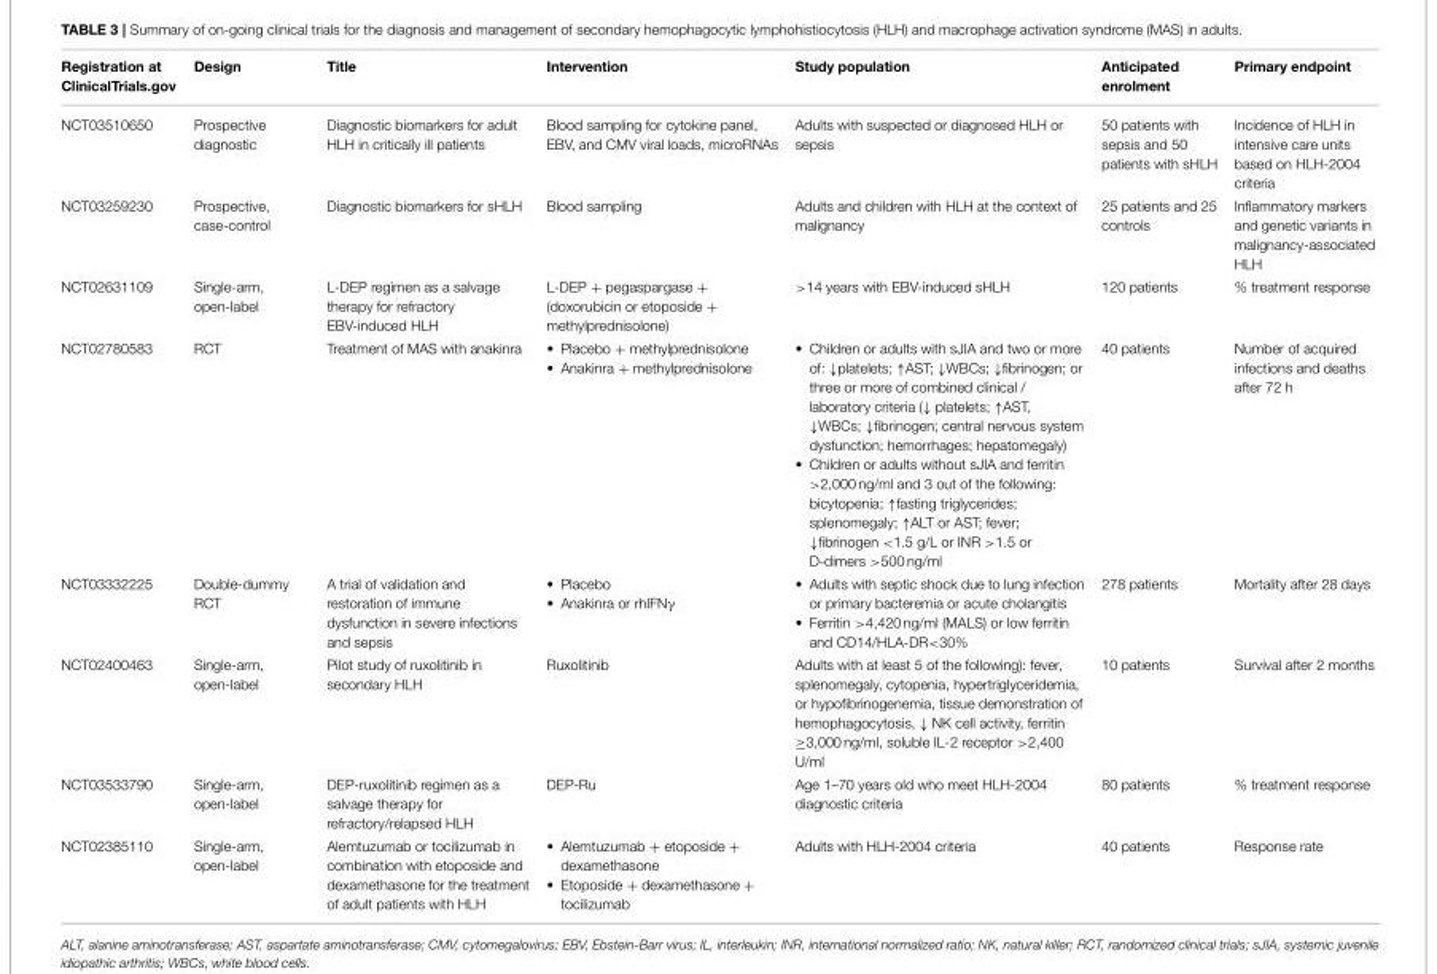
<table><thead><tr><td>Registration at ClinicalTrials.gov</td><td>Design</td><td>Title</td><td>Intervention</td><td>Study population</td><td>Anticipated enrolment</td><td>Primary endpoint</td></tr></thead><tbody><tr><td>NCT03510650</td><td>Prospective diagnostic</td><td>Diagnostic biomarkers for adult HLH in critically ill patients</td><td>Blood sampling for cytokine panel, EBV, and CMV viral loads, microRNAs</td><td>Adults with suspected or diagnosed HLH or sepsis</td><td>50 patients with sepsis and 50 patients with sHLH</td><td>Incidence of HLH in intensive care units based on HLH-2004 criteria</td></tr><tr><td>NCT03259230</td><td>Prospective, case-control</td><td>Diagnostic biomarkers for sHLH</td><td>Blood sampling</td><td>Adults and children with HLH at the context of malignancy</td><td>25 patients and 25 controls</td><td>Inflammatory markers and genetic variants in malignancy-associated HLH</td></tr><tr><td>NCT02631109</td><td>Single-arm, open-label</td><td>L-DEP regimen as a salvage therapy for refractory EBV-induced HLH</td><td>L-DEP + pegaspargase + (doxorubicin or etoposide + methylprednisolone)</td><td>&gt;14 years with EBV-induced sHLH</td><td>120 patients</td><td>% treatment response</td></tr><tr><td>NCT02780583</td><td>RCT</td><td>Treatment of MAS with anakinra</td><td>• Placebo + methylprednisolone • Anakinra + methylprednisolone</td><td>• Children or adults with sJIA and two or more of: ↓platelets; ↑AST; ↓WBCs; ↓fibrinogen; or three or more of combined clinical / laboratory criteria (↓ platelets; ↑AST, ↓WBCs; ↓fibrinogen; central nervous system dysfunction; hemorrhages; hepatomegaly) • Children or adults without sJIA and ferritin &gt;2,000 ng/ml and 3 out of the following: bicytopenia; ↑fasting triglycerides; splenomegaly; ↑ALT or AST; fever; ↓fibrinogen &lt;1.5 g/L or INR &gt;1.5 or D-dimers &gt;500 ng/ml</td><td>40 patients</td><td>Number of acquired infections and deaths after 72 h</td></tr><tr><td>NCT03332225</td><td>Double-dummy RCT</td><td>A trial of validation and restoration of immune dysfunction in severe infections and sepsis</td><td>• Placebo • Anakinra or rhIFNγ</td><td>• Adults with septic shock due to lung infection or primary bacteremia or acute cholangitis • Ferritin &gt;4,420 ng/ml (MALS) or low ferritin and CD14/HLA-DR&lt;30%</td><td>278 patients</td><td>Mortality after 28 days</td></tr><tr><td>NCT02400463</td><td>Single-arm, open-label</td><td>Pilot study of ruxolitinib in secondary HLH</td><td>Ruxolitinib</td><td>Adults with at least 5 of the following): fever, splenomegaly, cytopenia, hypertriglyceridemia, or hypofibrinogenemia, tissue demonstration of hemophagocytosis, ↓ NK cell activity, ferritin ≥3,000 ng/ml, soluble IL-2 receptor &gt;2,400 U/ml</td><td>10 patients</td><td>Survival after 2 months</td></tr><tr><td>NCT03533790</td><td>Single-arm, open-label</td><td>DEP-ruxolitinib regimen as a salvage therapy for refractory/relapsed HLH</td><td>DEP-Ru</td><td>Age 1–70 years old who meet HLH-2004 diagnostic criteria</td><td>80 patients</td><td>% treatment response</td></tr><tr><td>NCT02385110</td><td>Single-arm, open-label</td><td>Alemtuzumab or tocilizumab in combination with etoposide and dexamethasone for the treatment of adult patients with HLH</td><td>• Alemtuzumab + etoposide + dexamethasone • Etoposide + dexamethasone + tocilizumab</td><td>Adults with HLH-2004 criteria</td><td>40 patients</td><td>Response rate</td></tr></tbody></table>